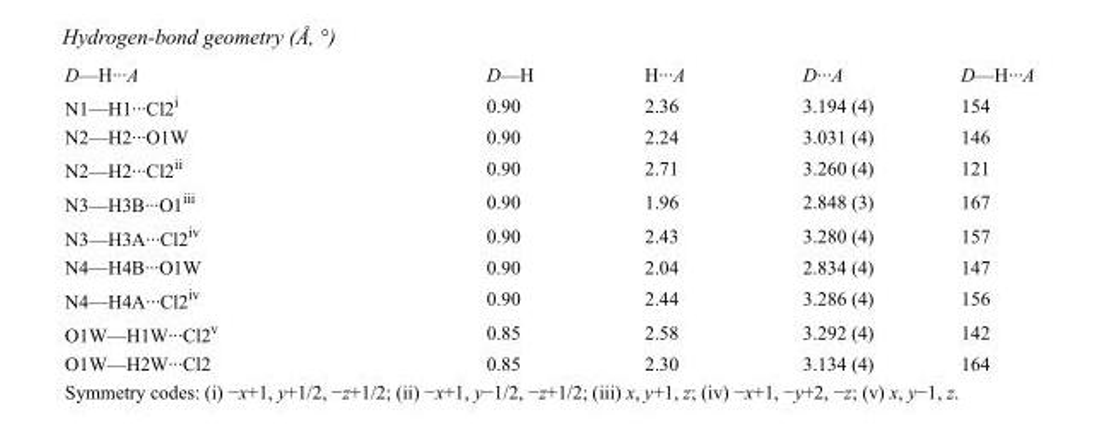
<table><tbody><tr><td>D—H···A</td><td>D—H</td><td>H···A</td><td>D···A</td><td>D—H···A</td></tr><tr><td>N1—H1···Cl2<sup>i</sup></td><td>0.90</td><td>2.36</td><td>3.194 (4)</td><td>154</td></tr><tr><td>N2—H2···O1W</td><td>0.90</td><td>2.24</td><td>3.031 (4)</td><td>146</td></tr><tr><td>N2—H2···Cl2<sup>ii</sup></td><td>0.90</td><td>2.71</td><td>3.260 (4)</td><td>121</td></tr><tr><td>N3—H3B···O1<sup>iii</sup></td><td>0.90</td><td>1.96</td><td>2.848 (3)</td><td>167</td></tr><tr><td>N3—H3A···Cl2<sup>iv</sup></td><td>0.90</td><td>2.43</td><td>3.280 (4)</td><td>157</td></tr><tr><td>N4—H4B···O1W</td><td>0.90</td><td>2.04</td><td>2.834 (4)</td><td>147</td></tr><tr><td>N4—H4A···Cl2<sup>iv</sup></td><td>0.90</td><td>2.44</td><td>3.286 (4)</td><td>156</td></tr><tr><td>O1W—H1W···Cl2<sup>v</sup></td><td>0.85</td><td>2.58</td><td>3.292 (4)</td><td>142</td></tr><tr><td>O1W—H2W···Cl2</td><td>0.85</td><td>2.30</td><td>3.134 (4)</td><td>164</td></tr></tbody></table>